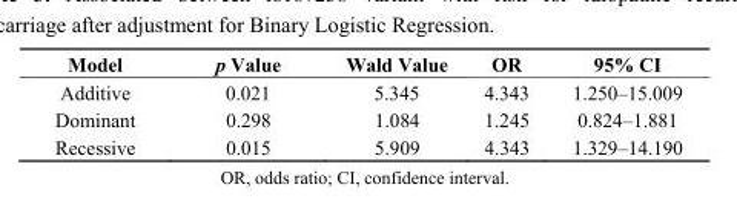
<table><thead><tr><td>Model</td><td>p Value</td><td>Wald Value</td><td>OR</td><td>95% CI</td></tr></thead><tbody><tr><td>Additive</td><td>0.021</td><td>5.345</td><td>4.343</td><td>1.250–15.009</td></tr><tr><td>Dominant</td><td>0.298</td><td>1.084</td><td>1.245</td><td>0.824–1.881</td></tr><tr><td>Recessive</td><td>0.015</td><td>5.909</td><td>4.343</td><td>1.329–14.190</td></tr></tbody></table>